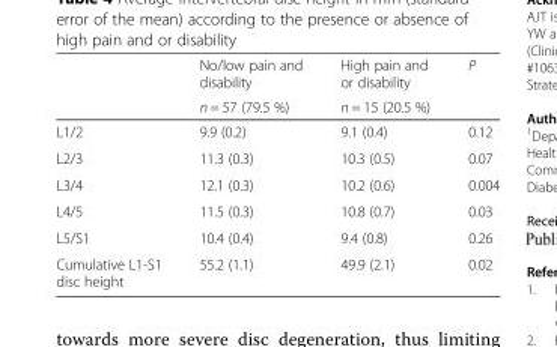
<table><thead><tr><td rowspan="2"></td><td rowspan="2">No/low pain and disability n = 57 (79.5 %)</td><td rowspan="2">High pain and or disability n = 15 (20.5 %)</td><td rowspan="2">P</td></tr><tr></tr></thead><tbody><tr><td>L1/2</td><td>9.9 (0.2)</td><td>9.1 (0.4)</td><td>0.12</td></tr><tr><td>L2/3</td><td>11.3 (0.3)</td><td>10.3 (0.5)</td><td>0.07</td></tr><tr><td>L3/4</td><td>12.1 (0.3)</td><td>10.2 (0.6)</td><td>0.004</td></tr><tr><td>L4/5</td><td>11.5 (0.3)</td><td>10.8 (0.7)</td><td>0.03</td></tr><tr><td>L5/S1</td><td>10.4 (0.4)</td><td>9.4 (0.8)</td><td>0.26</td></tr><tr><td>Cumulative L1-S1 disc height</td><td>55.2 (1.1)</td><td>49.9 (2.1)</td><td>0.02</td></tr></tbody></table>